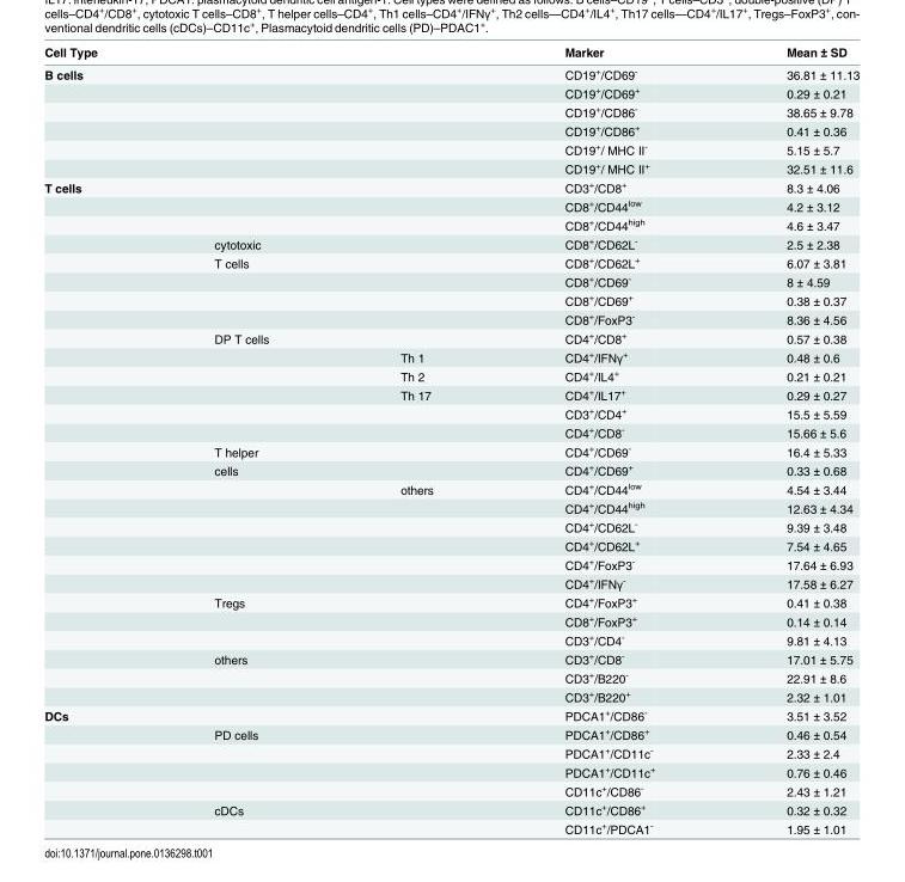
<table><thead><tr><td colspan="3">Cell Type</td><td rowspan="2">Marker CD19<sup>+</sup>/CD69<sup>-</sup></td><td rowspan="2">Mean ± SD 36.81 ± 11.13</td></tr><tr><td>B cells</td><td></td><td></td></tr></thead><tbody><tr><td></td><td></td><td></td><td>CD19<sup>+</sup>/CD69<sup>+</sup></td><td>0.29 ± 0.21</td></tr><tr><td></td><td></td><td></td><td>CD19<sup>+</sup>/CD86<sup>-</sup></td><td>38.65 ± 9.78</td></tr><tr><td></td><td></td><td></td><td>CD19<sup>+</sup>/CD86<sup>+</sup></td><td>0.41 ± 0.36</td></tr><tr><td></td><td></td><td></td><td>CD19<sup>+</sup>/ MHC II<sup>-</sup></td><td>5.15 ± 5.7</td></tr><tr><td></td><td></td><td></td><td>CD19<sup>+</sup>/ MHC II<sup>+</sup></td><td>32.51 ± 11.6</td></tr><tr><td rowspan="28">T cells</td><td></td><td></td><td>CD3<sup>+</sup>/CD8<sup>+</sup></td><td>8.3 ± 4.06</td></tr><tr><td></td><td></td><td>CD8<sup>+</sup>/CD44<sup>low</sup></td><td>4.2 ± 3.12</td></tr><tr><td></td><td></td><td>CD8<sup>+</sup>/CD44<sup>high</sup></td><td>4.6 ± 3.47</td></tr><tr><td>cytotoxic</td><td></td><td>CD8<sup>+</sup>/CD62L<sup>-</sup></td><td>2.5 ± 2.38</td></tr><tr><td>T cells</td><td></td><td>CD8<sup>+</sup>/CD62L<sup>+</sup></td><td>6.07 ± 3.81</td></tr><tr><td></td><td></td><td>CD8<sup>+</sup>/CD69<sup>-</sup></td><td>8 ± 4.59</td></tr><tr><td></td><td></td><td>CD8<sup>+</sup>/CD69<sup>+</sup></td><td>0.38 ± 0.37</td></tr><tr><td></td><td></td><td>CD8<sup>+</sup>/FoxP3<sup>-</sup></td><td>8.36 ± 4.56</td></tr><tr><td>DP T cells</td><td></td><td>CD4<sup>+</sup>/CD8<sup>+</sup></td><td>0.57 ± 0.38</td></tr><tr><td></td><td>Th 1</td><td>CD4<sup>+</sup>/IFNγ<sup>+</sup></td><td>0.48 ± 0.6</td></tr><tr><td></td><td>Th 2</td><td>CD4<sup>+</sup>/IL4<sup>+</sup></td><td>0.21 ± 0.21</td></tr><tr><td></td><td>Th 17</td><td>CD4<sup>+</sup>/IL17<sup>+</sup></td><td>0.29 ± 0.27</td></tr><tr><td></td><td></td><td>CD3<sup>+</sup>/CD4<sup>+</sup></td><td>15.5 ± 5.59</td></tr><tr><td></td><td></td><td>CD4<sup>+</sup>/CD8<sup>-</sup></td><td>15.66 ± 5.6</td></tr><tr><td>T helper</td><td></td><td>CD4<sup>+</sup>/CD69<sup>-</sup></td><td>16.4 ± 5.33</td></tr><tr><td>cells</td><td></td><td>CD4<sup>+</sup>/CD69<sup>+</sup></td><td>0.33 ± 0.68</td></tr><tr><td></td><td>others</td><td>CD4<sup>+</sup>/CD44<sup>low</sup></td><td>4.54 ± 3.44</td></tr><tr><td></td><td></td><td>CD4<sup>+</sup>/CD44<sup>high</sup></td><td>12.63 ± 4.34</td></tr><tr><td></td><td></td><td>CD4<sup>+</sup>/CD62L<sup>-</sup></td><td>9.39 ± 3.48</td></tr><tr><td></td><td></td><td>CD4<sup>+</sup>/CD62L<sup>+</sup></td><td>7.54 ± 4.65</td></tr><tr><td></td><td></td><td>CD4<sup>+</sup>/FoxP3<sup>-</sup></td><td>17.64 ± 6.93</td></tr><tr><td></td><td></td><td>CD4<sup>+</sup>/IFNγ<sup>-</sup></td><td>17.58 ± 6.27</td></tr><tr><td>Tregs</td><td></td><td>CD4<sup>+</sup>/FoxP3<sup>+</sup></td><td>0.41 ± 0.38</td></tr><tr><td></td><td></td><td>CD8<sup>+</sup>/FoxP3<sup>+</sup></td><td>0.14 ± 0.14</td></tr><tr><td></td><td></td><td>CD3<sup>+</sup>/CD4<sup>-</sup></td><td>9.81 ± 4.13</td></tr><tr><td>others</td><td></td><td>CD3<sup>+</sup>/CD8<sup>-</sup></td><td>17.01 ± 5.75</td></tr><tr><td></td><td></td><td>CD3<sup>+</sup>/B220<sup>-</sup></td><td>22.91 ± 8.6</td></tr><tr><td></td><td></td><td>CD3<sup>+</sup>/B220<sup>+</sup></td><td>2.32 ± 1.01</td></tr><tr><td rowspan="7">DCs</td><td></td><td></td><td>PDCA1<sup>+</sup>/CD86<sup>-</sup></td><td>3.51 ± 3.52</td></tr><tr><td>PD cells</td><td></td><td>PDCA1<sup>+</sup>/CD86<sup>+</sup></td><td>0.46 ± 0.54</td></tr><tr><td></td><td></td><td>PDCA1<sup>+</sup>/CD11c<sup>-</sup></td><td>2.33 ± 2.4</td></tr><tr><td></td><td></td><td>PDCA1<sup>+</sup>/CD11c<sup>+</sup></td><td>0.76 ± 0.46</td></tr><tr><td></td><td></td><td>CD11c<sup>+</sup>/CD86<sup>-</sup></td><td>2.43 ± 1.21</td></tr><tr><td>cDCs</td><td></td><td>CD11c<sup>+</sup>/CD86<sup>+</sup></td><td>0.32 ± 0.32</td></tr><tr><td></td><td></td><td>CD11c<sup>+</sup>/PDCA1<sup>-</sup></td><td>1.95 ± 1.01</td></tr></tbody></table>